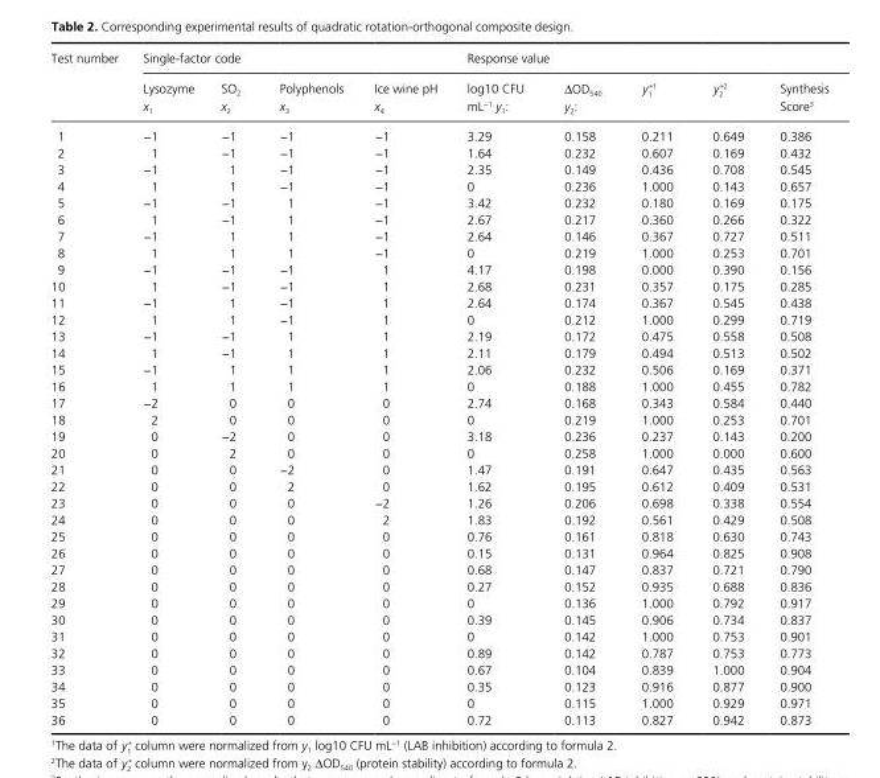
<table><thead><tr><td rowspan="2">Test number</td><td colspan="4">Single- factor code</td><td colspan="5">Response value</td></tr><tr><td>Lysozyme x<sub>1</sub></td><td>SO<sub>2</sub> x<sub>2</sub></td><td>Polyphenols x<sub>3</sub></td><td>Ice wine pH x<sub>4</sub></td><td>log10 CFU mL<sup>−1</sup> y<sub>1</sub>:</td><td>ΔOD<sub>540</sub> y<sub>2</sub>:</td><td>y∗ 1 1</td><td>y∗ 2 2</td><td>Synthesis Score<sup>3</sup></td></tr></thead><tbody><tr><td>1</td><td>−1</td><td>−1</td><td>−1</td><td>−1</td><td>3.29</td><td>0.158</td><td>0.211</td><td>0.649</td><td>0.386</td></tr><tr><td>2</td><td>1</td><td>−1</td><td>−1</td><td>−1</td><td>1.64</td><td>0.232</td><td>0.607</td><td>0.169</td><td>0.432</td></tr><tr><td>3</td><td>−1</td><td>1</td><td>−1</td><td>−1</td><td>2.35</td><td>0.149</td><td>0.436</td><td>0.708</td><td>0.545</td></tr><tr><td>4</td><td>1</td><td>1</td><td>−1</td><td>−1</td><td>0</td><td>0.236</td><td>1.000</td><td>0.143</td><td>0.657</td></tr><tr><td>5</td><td>−1</td><td>−1</td><td>1</td><td>−1</td><td>3.42</td><td>0.232</td><td>0.180</td><td>0.169</td><td>0.175</td></tr><tr><td>6</td><td>1</td><td>−1</td><td>1</td><td>−1</td><td>2.67</td><td>0.217</td><td>0.360</td><td>0.266</td><td>0.322</td></tr><tr><td>7</td><td>−1</td><td>1</td><td>1</td><td>−1</td><td>2.64</td><td>0.146</td><td>0.367</td><td>0.727</td><td>0.511</td></tr><tr><td>8</td><td>1</td><td>1</td><td>1</td><td>−1</td><td>0</td><td>0.219</td><td>1.000</td><td>0.253</td><td>0.701</td></tr><tr><td>9</td><td>−1</td><td>−1</td><td>−1</td><td>1</td><td>4.17</td><td>0.198</td><td>0.000</td><td>0.390</td><td>0.156</td></tr><tr><td>10</td><td>1</td><td>−1</td><td>−1</td><td>1</td><td>2.68</td><td>0.231</td><td>0.357</td><td>0.175</td><td>0.285</td></tr><tr><td>11</td><td>−1</td><td>1</td><td>−1</td><td>1</td><td>2.64</td><td>0.174</td><td>0.367</td><td>0.545</td><td>0.438</td></tr><tr><td>12</td><td>1</td><td>1</td><td>−1</td><td>1</td><td>0</td><td>0.212</td><td>1.000</td><td>0.299</td><td>0.719</td></tr><tr><td>13</td><td>−1</td><td>−1</td><td>1</td><td>1</td><td>2.19</td><td>0.172</td><td>0.475</td><td>0.558</td><td>0.508</td></tr><tr><td>14</td><td>1</td><td>−1</td><td>1</td><td>1</td><td>2.11</td><td>0.179</td><td>0.494</td><td>0.513</td><td>0.502</td></tr><tr><td>15</td><td>−1</td><td>1</td><td>1</td><td>1</td><td>2.06</td><td>0.232</td><td>0.506</td><td>0.169</td><td>0.371</td></tr><tr><td>16</td><td>1</td><td>1</td><td>1</td><td>1</td><td>0</td><td>0.188</td><td>1.000</td><td>0.455</td><td>0.782</td></tr><tr><td>17</td><td>−2</td><td>0</td><td>0</td><td>0</td><td>2.74</td><td>0.168</td><td>0.343</td><td>0.584</td><td>0.440</td></tr><tr><td>18</td><td>2</td><td>0</td><td>0</td><td>0</td><td>0</td><td>0.219</td><td>1.000</td><td>0.253</td><td>0.701</td></tr><tr><td>19</td><td>0</td><td>−2</td><td>0</td><td>0</td><td>3.18</td><td>0.236</td><td>0.237</td><td>0.143</td><td>0.200</td></tr><tr><td>20</td><td>0</td><td>2</td><td>0</td><td>0</td><td>0</td><td>0.258</td><td>1.000</td><td>0.000</td><td>0.600</td></tr><tr><td>21</td><td>0</td><td>0</td><td>−2</td><td>0</td><td>1.47</td><td>0.191</td><td>0.647</td><td>0.435</td><td>0.563</td></tr><tr><td>22</td><td>0</td><td>0</td><td>2</td><td>0</td><td>1.62</td><td>0.195</td><td>0.612</td><td>0.409</td><td>0.531</td></tr><tr><td>23</td><td>0</td><td>0</td><td>0</td><td>−2</td><td>1.26</td><td>0.206</td><td>0.698</td><td>0.338</td><td>0.554</td></tr><tr><td>24</td><td>0</td><td>0</td><td>0</td><td>2</td><td>1.83</td><td>0.192</td><td>0.561</td><td>0.429</td><td>0.508</td></tr><tr><td>25</td><td>0</td><td>0</td><td>0</td><td>0</td><td>0.76</td><td>0.161</td><td>0.818</td><td>0.630</td><td>0.743</td></tr><tr><td>26</td><td>0</td><td>0</td><td>0</td><td>0</td><td>0.15</td><td>0.131</td><td>0.964</td><td>0.825</td><td>0.908</td></tr><tr><td>27</td><td>0</td><td>0</td><td>0</td><td>0</td><td>0.68</td><td>0.147</td><td>0.837</td><td>0.721</td><td>0.790</td></tr><tr><td>28</td><td>0</td><td>0</td><td>0</td><td>0</td><td>0.27</td><td>0.152</td><td>0.935</td><td>0.688</td><td>0.836</td></tr><tr><td>29</td><td>0</td><td>0</td><td>0</td><td>0</td><td>0</td><td>0.136</td><td>1.000</td><td>0.792</td><td>0.917</td></tr><tr><td>30</td><td>0</td><td>0</td><td>0</td><td>0</td><td>0.39</td><td>0.145</td><td>0.906</td><td>0.734</td><td>0.837</td></tr><tr><td>31</td><td>0</td><td>0</td><td>0</td><td>0</td><td>0</td><td>0.142</td><td>1.000</td><td>0.753</td><td>0.901</td></tr><tr><td>32</td><td>0</td><td>0</td><td>0</td><td>0</td><td>0.89</td><td>0.142</td><td>0.787</td><td>0.753</td><td>0.773</td></tr><tr><td>33</td><td>0</td><td>0</td><td>0</td><td>0</td><td>0.67</td><td>0.104</td><td>0.839</td><td>1.000</td><td>0.904</td></tr><tr><td>34</td><td>0</td><td>0</td><td>0</td><td>0</td><td>0.35</td><td>0.123</td><td>0.916</td><td>0.877</td><td>0.900</td></tr><tr><td>35</td><td>0</td><td>0</td><td>0</td><td>0</td><td>0</td><td>0.115</td><td>1.000</td><td>0.929</td><td>0.971</td></tr><tr><td>36</td><td>0</td><td>0</td><td>0</td><td>0</td><td>0.72</td><td>0.113</td><td>0.827</td><td>0.942</td><td>0.873</td></tr></tbody></table>